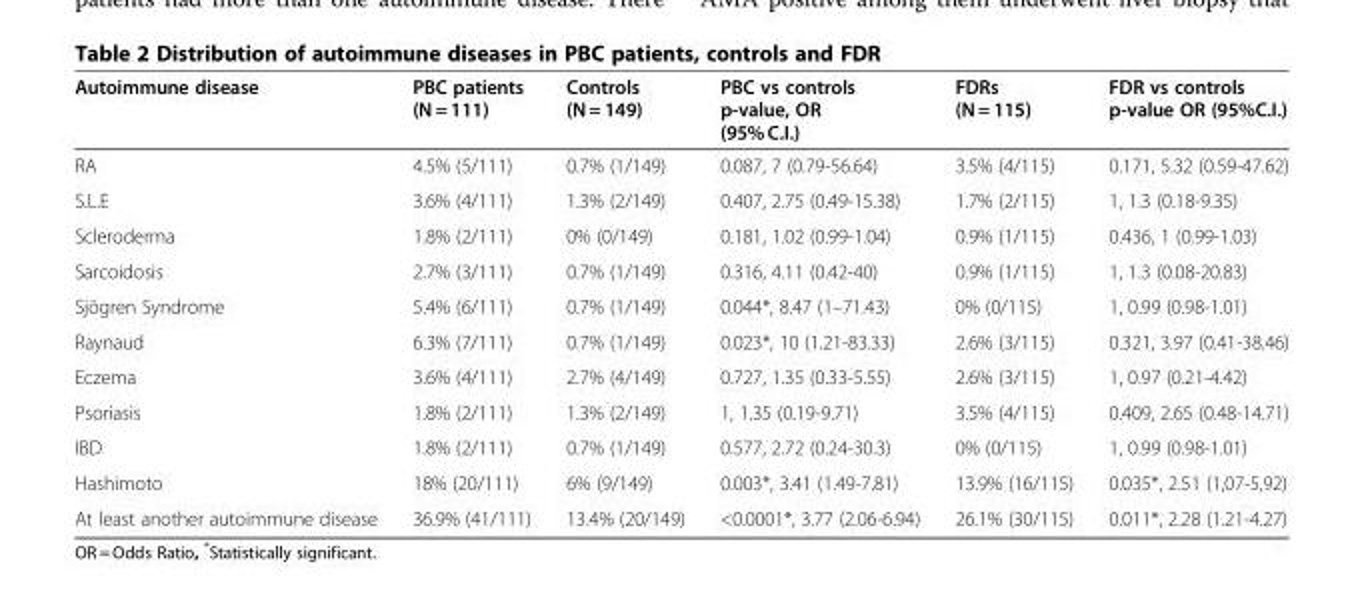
<table><thead><tr><td>Autoimmune disease</td><td>PBC patients (N = 111)</td><td>Controls (N = 149)</td><td>PBC vs controls p-value, OR (95% C.I.)</td><td>FDRs (N = 115)</td><td>FDR vs controls p-value OR (95%C.I.)</td></tr></thead><tbody><tr><td>RA</td><td>4.5% (5/111)</td><td>0.7% (1/149)</td><td>0.087, 7 (0.79-56.64)</td><td>3.5% (4/115)</td><td>0.171, 5.32 (0.59-47.62)</td></tr><tr><td>S.L.E</td><td>3.6% (4/111)</td><td>1.3% (2/149)</td><td>0.407, 2.75 (0.49-15.38)</td><td>1.7% (2/115)</td><td>1, 1.3 (0.18-9.35)</td></tr><tr><td>Scleroderma</td><td>1.8% (2/111)</td><td>0% (0/149)</td><td>0.181, 1.02 (0.99-1.04)</td><td>0.9% (1/115)</td><td>0.436, 1 (0.99-1.03)</td></tr><tr><td>Sarcoidosis</td><td>2.7% (3/111)</td><td>0.7% (1/149)</td><td>0.316, 4.11 (0.42-40)</td><td>0.9% (1/115)</td><td>1, 1.3 (0.08-20.83)</td></tr><tr><td>Sjögren Syndrome</td><td>5.4% (6/111)</td><td>0.7% (1/149)</td><td>0.044*, 8.47 (1–71.43)</td><td>0% (0/115)</td><td>1, 0.99 (0.98-1.01)</td></tr><tr><td>Raynaud</td><td>6.3% (7/111)</td><td>0.7% (1/149)</td><td>0.023*, 10 (1.21-83.33)</td><td>2.6% (3/115)</td><td>0.321, 3.97 (0.41-38.46)</td></tr><tr><td>Eczema</td><td>3.6% (4/111)</td><td>2.7% (4/149)</td><td>0.727, 1.35 (0.33-5.55)</td><td>2.6% (3/115)</td><td>1, 0.97 (0.21-4.42)</td></tr><tr><td>Psoriasis</td><td>1.8% (2/111)</td><td>1.3% (2/149)</td><td>1, 1.35 (0.19-9.71)</td><td>3.5% (4/115)</td><td>0.409, 2.65 (0.48-14.71)</td></tr><tr><td>IBD</td><td>1.8% (2/111)</td><td>0.7% (1/149)</td><td>0.577, 2.72 (0.24-30.3)</td><td>0% (0/115)</td><td>1, 0.99 (0.98-1.01)</td></tr><tr><td>Hashimoto</td><td>18% (20/111)</td><td>6% (9/149)</td><td>0.003*, 3.41 (1.49-7.81)</td><td>13.9% (16/115)</td><td>0.035*, 2.51 (1,07-5,92)</td></tr><tr><td>At least another autoimmune disease</td><td>36.9% (41/111)</td><td>13.4% (20/149)</td><td>&lt;0.0001*, 3.77 (2.06-6.94)</td><td>26.1% (30/115)</td><td>0.011*, 2.28 (1.21-4.27)</td></tr></tbody></table>